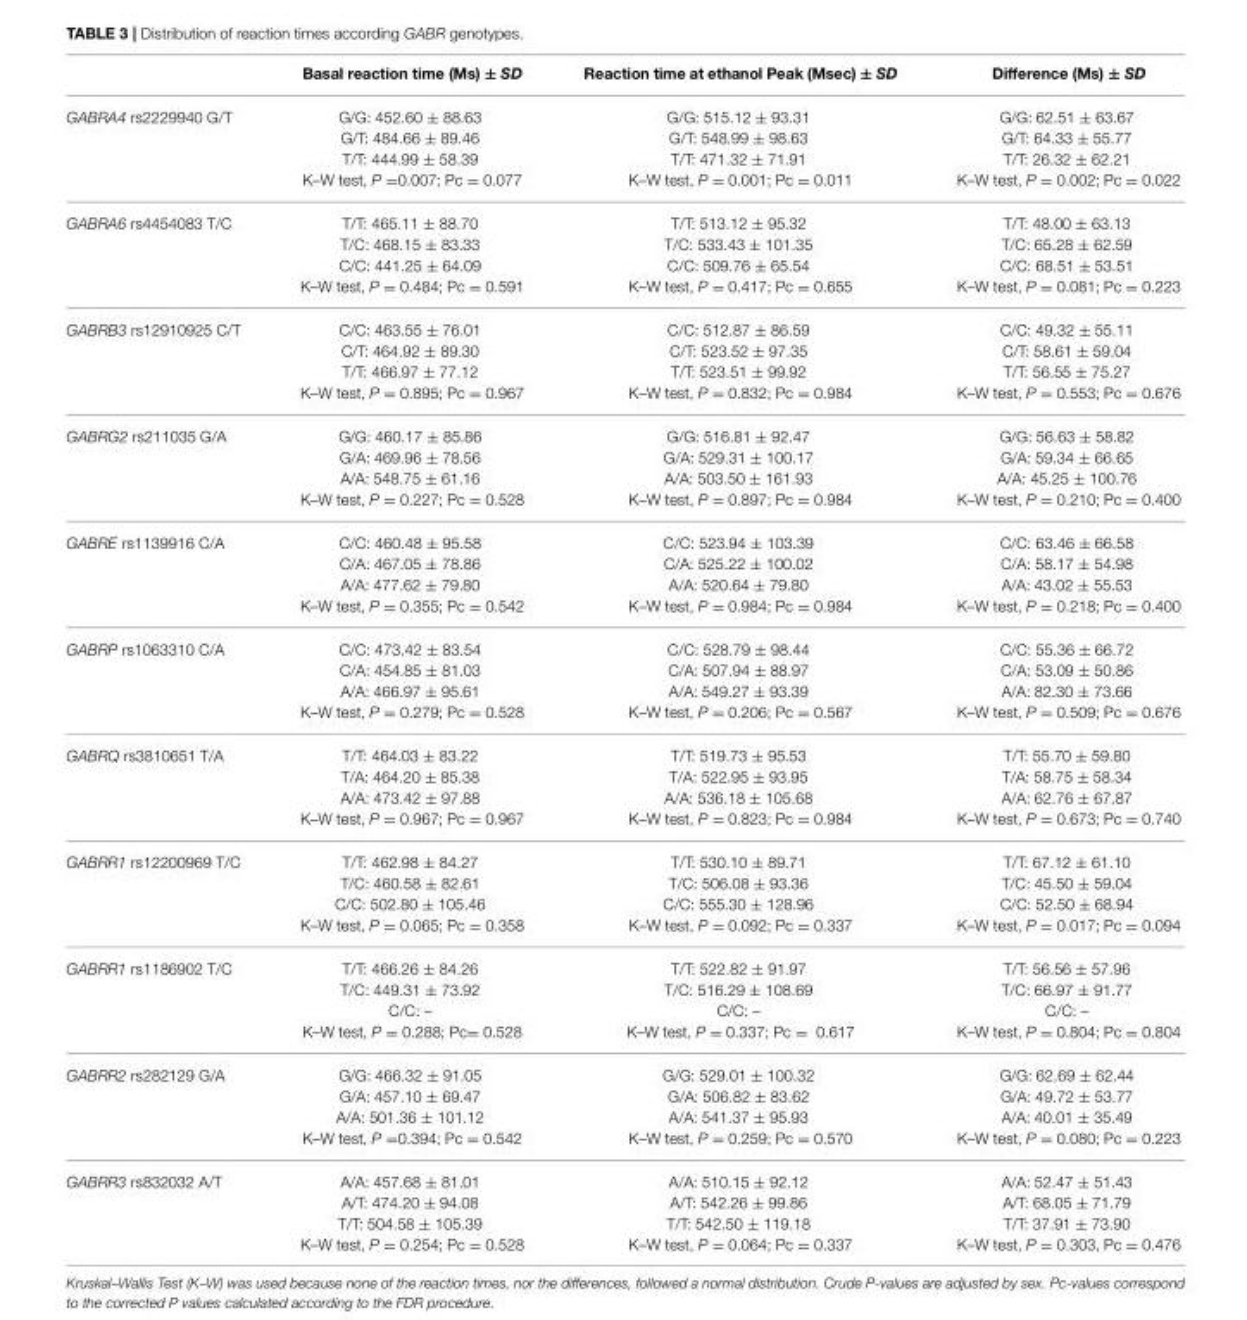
<table><thead><tr><td></td><td>Basal reaction time (Ms) ± SD</td><td>Reaction time at ethanol Peak (Msec) ± SD</td><td>Difference (Ms) ± SD</td></tr></thead><tbody><tr><td>GABRA4 rs2229940 G/T</td><td>G/G: 452.60 ± 88.63 G/T: 484.66 ± 89.46 T/T: 444.99 ± 58.39 K–W test, P =0.007; Pc = 0.077</td><td>G/G: 515.12 ± 93.31 G/T: 548.99 ± 98.63 T/T: 471.32 ± 71.91 K–W test, P = 0.001; Pc = 0.011</td><td>G/G: 62.51 ± 63.67 G/T: 64.33 ± 55.77 T/T: 26.32 ± 62.21 K–W test, P = 0.002; Pc = 0.022</td></tr><tr><td>GABRA6 rs4454083 T/C</td><td>T/T: 465.11 ± 88.70 T/C: 468.15 ± 83.33 C/C: 441.25 ± 64.09 K–W test, P = 0.484; Pc = 0.591</td><td>T/T: 513.12 ± 95.32 T/C: 533.43 ± 101.35 C/C: 509.76 ± 65.54 K–W test, P = 0.417; Pc = 0.655</td><td>T/T: 48.00 ± 63.13 T/C: 65.28 ± 62.59 C/C: 68.51 ± 53.51 K–W test, P = 0.081; Pc = 0.223</td></tr><tr><td>GABRB3 rs12910925 C/T</td><td>C/C: 463.55 ± 76.01 C/T: 464.92 ± 89.30 T/T: 466.97 ± 77.12 K–W test, P = 0.895; Pc = 0.967</td><td>C/C: 512.87 ± 86.59 C/T: 523.52 ± 97.35 T/T: 523.51 ± 99.92 K–W test, P = 0.832; Pc = 0.984</td><td>C/C: 49.32 ± 55.11 C/T: 58.61 ± 59.04 T/T: 56.55 ± 75.27 K–W test, P = 0.553; Pc = 0.676</td></tr><tr><td>GABRG2 rs211035 G/A</td><td>G/G: 460.17 ± 85.86 G/A: 469.96 ± 78.56 A/A: 548.75 ± 61.16 K–W test, P = 0.227; Pc = 0.528</td><td>G/G: 516.81 ± 92.47 G/A: 529.31 ± 100.17 A/A: 503.50 ± 161.93 K–W test, P = 0.897; Pc = 0.984</td><td>G/G: 56.63 ± 58.82 G/A: 59.34 ± 66.65 A/A: 45.25 ± 100.76 K–W test, P = 0.210; Pc = 0.400</td></tr><tr><td>GABRE rs1139916 C/A</td><td>C/C: 460.48 ± 95.58 C/A: 467.05 ± 78.86 A/A: 477.62 ± 79.80 K–W test, P = 0.355; Pc = 0.542</td><td>C/C: 523.94 ± 103.39 C/A: 525.22 ± 100.02 A/A: 520.64 ± 79.80 K–W test, P = 0.984; Pc = 0.984</td><td>C/C: 63.46 ± 66.58 C/A: 58.17 ± 54.98 A/A: 43.02 ± 55.53 K–W test, P = 0.218; Pc = 0.400</td></tr><tr><td>GABRP rs1063310 C/A</td><td>C/C: 473.42 ± 83.54 C/A: 454.85 ± 81.03 A/A: 466.97 ± 95.61 K–W test, P = 0.279; Pc = 0.528</td><td>C/C: 528.79 ± 98.44 C/A: 507.94 ± 88.97 A/A: 549.27 ± 93.39 K–W test, P = 0.206; Pc = 0.567</td><td>C/C: 55.36 ± 66.72 C/A: 53.09 ± 50.86 A/A: 82.30 ± 73.66 K–W test, P = 0.509; Pc = 0.676</td></tr><tr><td>GABRQ rs3810651 T/A</td><td>T/T: 464.03 ± 83.22 T/A: 464.20 ± 85.38 A/A: 473.42 ± 97.88 K–W test, P = 0.967; Pc = 0.967</td><td>T/T: 519.73 ± 95.53 T/A: 522.95 ± 93.95 A/A: 536.18 ± 105.68 K–W test, P = 0.823; Pc = 0.984</td><td>T/T: 55.70 ± 59.80 T/A: 58.75 ± 58.34 A/A: 62.76 ± 67.87 K–W test, P = 0.673; Pc = 0.740</td></tr><tr><td>GABRR1 rs12200969 T/C</td><td>T/T: 462.98 ± 84.27 T/C: 460.58 ± 82.61 C/C: 502.80 ± 105.46 K–W test, P = 0.065; Pc = 0.358</td><td>T/T: 530.10 ± 89.71 T/C: 506.08 ± 93.36 C/C: 555.30 ± 128.96 K–W test, P = 0.092; Pc = 0.337</td><td>T/T: 67.12 ± 61.10 T/C: 45.50 ± 59.04 C/C: 52.50 ± 68.94 K–W test, P = 0.017; Pc = 0.094</td></tr><tr><td>GABRR1 rs1186902 T/C</td><td>T/T: 466.26 ± 84.26 T/C: 449.31 ± 73.92 C/C: – K–W test, P = 0.288; Pc= 0.528</td><td>T/T: 522.82 ± 91.97 T/C: 516.29 ± 108.69 C/C: – K–W test, P = 0.337; Pc = 0.617</td><td>T/T: 56.56 ± 57.96 T/C: 66.97 ± 91.77 C/C: – K–W test, P = 0.804; Pc = 0.804</td></tr><tr><td>GABRR2 rs282129 G/A</td><td>G/G: 466.32 ± 91.05 G/A: 457.10 ± 69.47 A/A: 501.36 ± 101.12 K–W test, P =0.394; Pc = 0.542</td><td>G/G: 529.01 ± 100.32 G/A: 506.82 ± 83.62 A/A: 541.37 ± 95.93 K–W test, P = 0.259; Pc = 0.570</td><td>G/G: 62.69 ± 62.44 G/A: 49.72 ± 53.77 A/A: 40.01 ± 35.49 K–W test, P = 0.080; Pc = 0.223</td></tr><tr><td>GABRR3 rs832032 A/T</td><td>A/A: 457.68 ± 81.01 A/T: 474.20 ± 94.08 T/T: 504.58 ± 105.39 K–W test, P = 0.254; Pc = 0.528</td><td>A/A: 510.15 ± 92.12 A/T: 542.26 ± 99.86 T/T: 542.50 ± 119.18 K–W test, P = 0.064; Pc = 0.337</td><td>A/A: 52.47 ± 51.43 A/T: 68.05 ± 71.79 T/T: 37.91 ± 73.90 K–W test, P = 0.303, Pc = 0.476</td></tr></tbody></table>